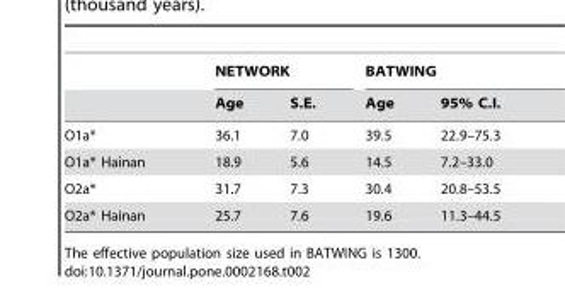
<table><thead><tr><td rowspan="2"></td><td colspan="2">NETWORK</td><td colspan="2">BATWING</td></tr><tr><td>Age</td><td>S.E.</td><td>Age</td><td>95% C.I.</td></tr></thead><tbody><tr><td>O1a*</td><td>36.1</td><td>7.0</td><td>39.5</td><td>22.9–75.3</td></tr><tr><td>O1a* Hainan</td><td>18.9</td><td>5.6</td><td>14.5</td><td>7.2–33.0</td></tr><tr><td>O2a*</td><td>31.7</td><td>7.3</td><td>30.4</td><td>20.8–53.5</td></tr><tr><td>O2a* Hainan</td><td>25.7</td><td>7.6</td><td>19.6</td><td>11.3–44.5</td></tr></tbody></table>